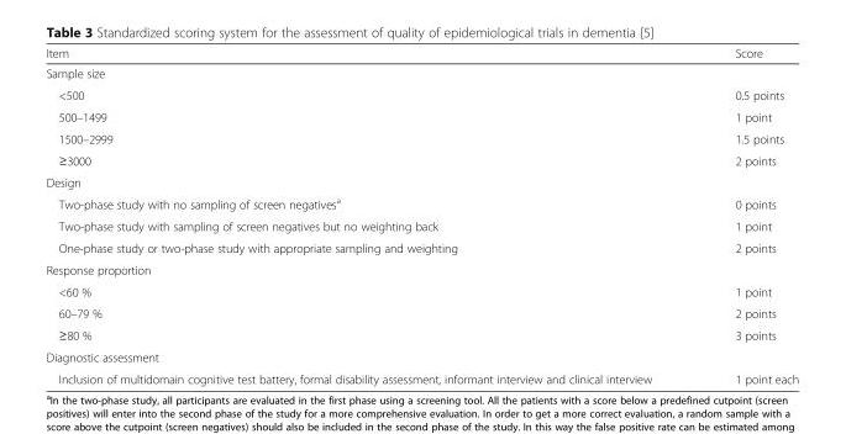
<table><thead><tr><td>Item</td><td>Score</td></tr></thead><tbody><tr><td colspan="2">Sample size</td></tr><tr><td>&lt;500</td><td>0.5 points</td></tr><tr><td>500–1499</td><td>1 point</td></tr><tr><td>1500–2999</td><td>1.5 points</td></tr><tr><td>≥3000</td><td>2 points</td></tr><tr><td colspan="2">Design</td></tr><tr><td>Two-phase study with no sampling of screen negatives<sup>a</sup></td><td>0 points</td></tr><tr><td>Two-phase study with sampling of screen negatives but no weighting back</td><td>1 point</td></tr><tr><td>One-phase study or two-phase study with appropriate sampling and weighting</td><td>2 points</td></tr><tr><td colspan="2">Response proportion</td></tr><tr><td>&lt;60 %</td><td>1 point</td></tr><tr><td>60–79 %</td><td>2 points</td></tr><tr><td>≥80 %</td><td>3 points</td></tr><tr><td colspan="2">Diagnostic assessment</td></tr><tr><td>Inclusion of multidomain cognitive test battery, formal disability assessment, informant interview and clinical interview</td><td>1 point each</td></tr></tbody></table>